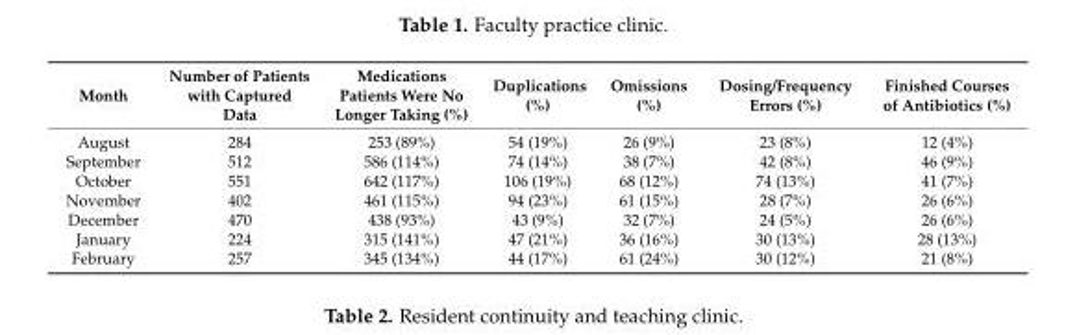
<table><thead><tr><td>Month</td><td>Number of Patients with Captured Data</td><td>Medications Patients Were No Longer Taking (%)</td><td>Duplications (%)</td><td>Omissions (%)</td><td>Dosing/Frequency Errors (%)</td><td>Finished Courses of Antibiotics (%)</td></tr></thead><tbody><tr><td>August</td><td>284</td><td>253 (89%)</td><td>54 (19%)</td><td>26 (9%)</td><td>23 (8%)</td><td>12 (4%)</td></tr><tr><td>September</td><td>512</td><td>586 (114%)</td><td>74 (14%)</td><td>38 (7%)</td><td>42 (8%)</td><td>46 (9%)</td></tr><tr><td>October</td><td>551</td><td>642 (117%)</td><td>106 (19%)</td><td>68 (12%)</td><td>74 (13%)</td><td>41 (7%)</td></tr><tr><td>November</td><td>402</td><td>461 (115%)</td><td>94 (23%)</td><td>61 (15%)</td><td>28 (7%)</td><td>26 (6%)</td></tr><tr><td>December</td><td>470</td><td>438 (93%)</td><td>43 (9%)</td><td>32 (7%)</td><td>24 (5%)</td><td>26 (6%)</td></tr><tr><td>January</td><td>224</td><td>315 (141%)</td><td>47 (21%)</td><td>36 (16%)</td><td>30 (13%)</td><td>28 (13%)</td></tr><tr><td>February</td><td>257</td><td>345 (134%)</td><td>44 (17%)</td><td>61 (24%)</td><td>30 (12%)</td><td>21 (8%)</td></tr></tbody></table>